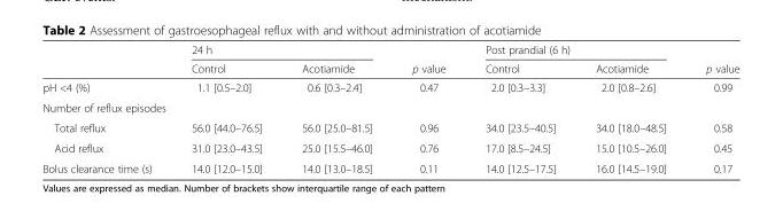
<table><thead><tr><td rowspan="2"></td><td colspan="2">24 h</td><td rowspan="2">p value</td><td colspan="2">Post prandial (6 h)</td><td rowspan="2">p value</td></tr><tr><td>Control</td><td>Acotiamide</td><td>Control</td><td>Acotiamide</td></tr></thead><tbody><tr><td>pH &lt;4 (%)</td><td>1.1 [0.5–2.0]</td><td>0.6 [0.3–2.4]</td><td>0.47</td><td>2.0 [0.3–3.3]</td><td>2.0 [0.8–2.6]</td><td>0.99</td></tr><tr><td colspan="7">Number of reflux episodes</td></tr><tr><td>Total reflux</td><td>56.0 [44.0–76.5]</td><td>56.0 [25.0–81.5]</td><td>0.96</td><td>34.0 [23.5–40.5]</td><td>34.0 [18.0–48.5]</td><td>0.58</td></tr><tr><td>Acid reflux</td><td>31.0 [23.0–43.5]</td><td>25.0 [15.5–46.0]</td><td>0.76</td><td>17.0 [8.5–24.5]</td><td>15.0 [10.5–26.0]</td><td>0.45</td></tr><tr><td>Bolus clearance time (s)</td><td>14.0 [12.0–15.0]</td><td>14.0 [13.0–18.5]</td><td>0.11</td><td>14.0 [12.5–17.5]</td><td>16.0 [14.5–19.0]</td><td>0.17</td></tr></tbody></table>